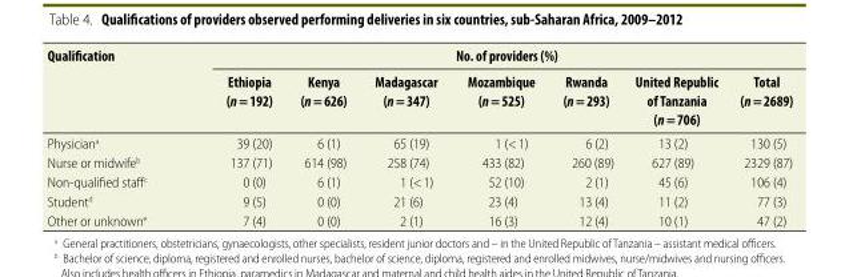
<table><thead><tr><td rowspan="2">Qualification</td><td colspan="7">No. of providers (%)</td></tr><tr><td>Ethiopia (n = 192)</td><td>Kenya (n = 626)</td><td>Madagascar (n = 347)</td><td>Mozambique (n = 525)</td><td>Rwanda (n = 293)</td><td>United Republic of Tanzania (n = 706)</td><td>Total (n = 2689)</td></tr></thead><tbody><tr><td>Physician<sup>a</sup></td><td>39 (20)</td><td>6 (1)</td><td>65 (19)</td><td>1 (&lt; 1)</td><td>6 (2)</td><td>13 (2)</td><td>130 (5)</td></tr><tr><td>Nurse or midwife<sup>b</sup></td><td>137 (71)</td><td>614 (98)</td><td>258 (74)</td><td>433 (82)</td><td>260 (89)</td><td>627 (89)</td><td>2329 (87)</td></tr><tr><td>Non-qualified staff<sup>c</sup></td><td>0 (0)</td><td>6 (1)</td><td>1 (&lt; 1)</td><td>52 (10)</td><td>2 (1)</td><td>45 (6)</td><td>106 (4)</td></tr><tr><td>Student<sup>d</sup></td><td>9 (5)</td><td>0 (0)</td><td>21 (6)</td><td>23 (4)</td><td>13 (4)</td><td>11 (2)</td><td>77 (3)</td></tr><tr><td>Other or unknown<sup>e</sup></td><td>7 (4)</td><td>0 (0)</td><td>2 (1)</td><td>16 (3)</td><td>12 (4)</td><td>10 (1)</td><td>47 (2)</td></tr></tbody></table>